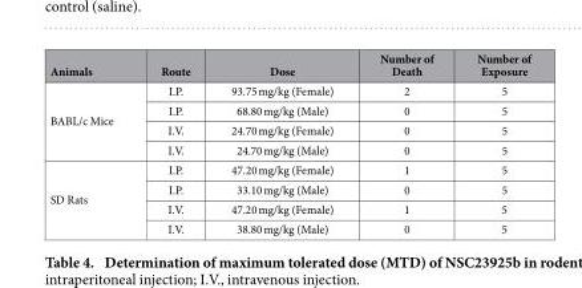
<table><thead><tr><td>Animals</td><td>Route</td><td>Dose</td><td>Number of Death</td><td>Number of Exposure</td></tr></thead><tbody><tr><td rowspan="4">BABL/c Mice</td><td>I.P.</td><td>93.75 mg/kg (Female)</td><td>2</td><td>5</td></tr><tr><td>I.P.</td><td>68.80 mg/kg (Male)</td><td>0</td><td>5</td></tr><tr><td>I.V.</td><td>24.70 mg/kg (Female)</td><td>0</td><td>5</td></tr><tr><td>I.V.</td><td>24.70 mg/kg (Male)</td><td>0</td><td>5</td></tr><tr><td rowspan="4">SD Rats</td><td>I.P.</td><td>47.20 mg/kg (Female)</td><td>1</td><td>5</td></tr><tr><td>I.P.</td><td>33.10 mg/kg (Male)</td><td>0</td><td>5</td></tr><tr><td>I.V.</td><td>47.20 mg/kg (Female)</td><td>1</td><td>5</td></tr><tr><td>I.V.</td><td>38.80 mg/kg (Male)</td><td>0</td><td>5</td></tr></tbody></table>